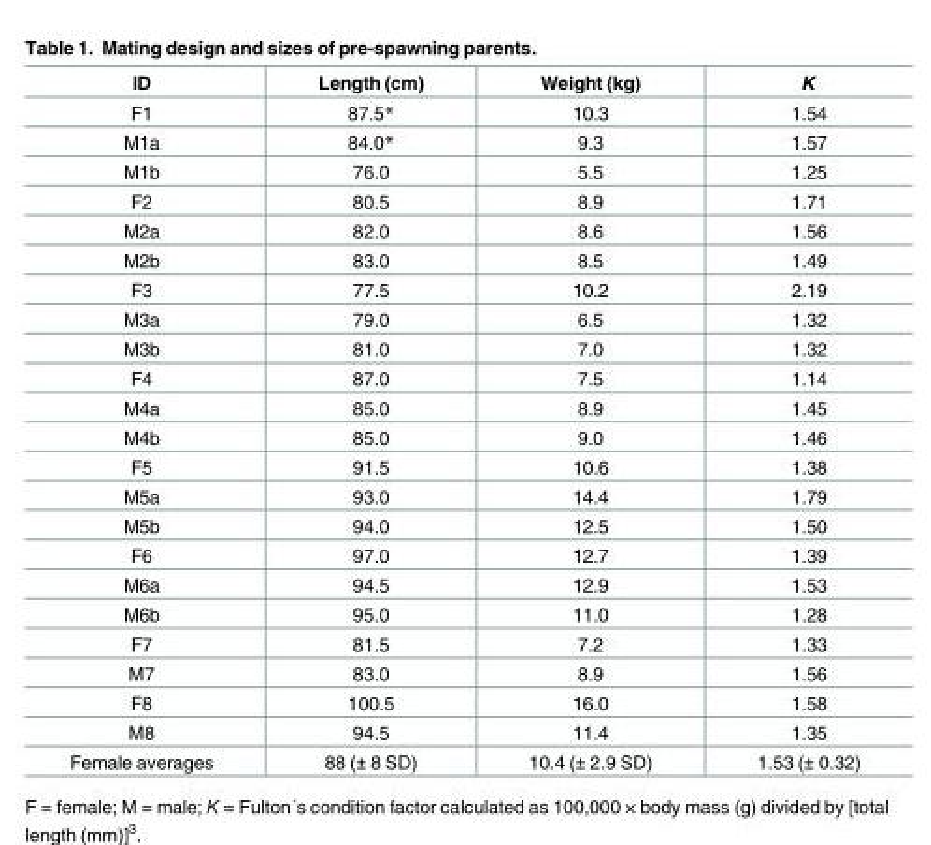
<table><thead><tr><td>ID</td><td>Length (cm)</td><td>Weight (kg)</td><td>K</td></tr></thead><tbody><tr><td>F1</td><td>87.5*</td><td>10.3</td><td>1.54</td></tr><tr><td>M1a</td><td>84.0*</td><td>9.3</td><td>1.57</td></tr><tr><td>M1b</td><td>76.0</td><td>5.5</td><td>1.25</td></tr><tr><td>F2</td><td>80.5</td><td>8.9</td><td>1.71</td></tr><tr><td>M2a</td><td>82.0</td><td>8.6</td><td>1.56</td></tr><tr><td>M2b</td><td>83.0</td><td>8.5</td><td>1.49</td></tr><tr><td>F3</td><td>77.5</td><td>10.2</td><td>2.19</td></tr><tr><td>M3a</td><td>79.0</td><td>6.5</td><td>1.32</td></tr><tr><td>M3b</td><td>81.0</td><td>7.0</td><td>1.32</td></tr><tr><td>F4</td><td>87.0</td><td>7.5</td><td>1.14</td></tr><tr><td>M4a</td><td>85.0</td><td>8.9</td><td>1.45</td></tr><tr><td>M4b</td><td>85.0</td><td>9.0</td><td>1.46</td></tr><tr><td>F5</td><td>91.5</td><td>10.6</td><td>1.38</td></tr><tr><td>M5a</td><td>93.0</td><td>14.4</td><td>1.79</td></tr><tr><td>M5b</td><td>94.0</td><td>12.5</td><td>1.50</td></tr><tr><td>F6</td><td>97.0</td><td>12.7</td><td>1.39</td></tr><tr><td>M6a</td><td>94.5</td><td>12.9</td><td>1.53</td></tr><tr><td>M6b</td><td>95.0</td><td>11.0</td><td>1.28</td></tr><tr><td>F7</td><td>81.5</td><td>7.2</td><td>1.33</td></tr><tr><td>M7</td><td>83.0</td><td>8.9</td><td>1.56</td></tr><tr><td>F8</td><td>100.5</td><td>16.0</td><td>1.58</td></tr><tr><td>M8</td><td>94.5</td><td>11.4</td><td>1.35</td></tr><tr><td>Female averages</td><td>88 (± 8 SD)</td><td>10.4 (± 2.9 SD)</td><td>1.53 (± 0.32)</td></tr></tbody></table>